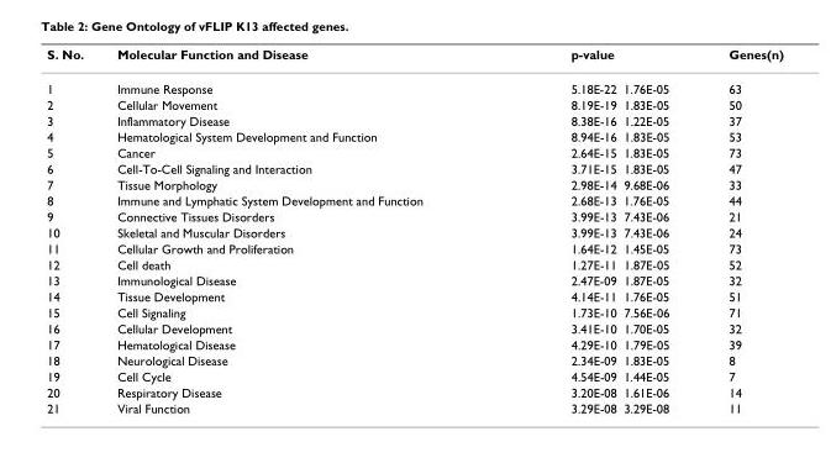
<table><thead><tr><td>S. No.</td><td>Molecular Function and Disease</td><td>p-value</td><td>Genes(n)</td></tr></thead><tbody><tr><td>1</td><td>Immune Response</td><td>5.18E-22 1.76E-05</td><td>63</td></tr><tr><td>2</td><td>Cellular Movement</td><td>8.19E-19 1.83E-05</td><td>50</td></tr><tr><td>3</td><td>Inflammatory Disease</td><td>8.38E-16 1.22E-05</td><td>37</td></tr><tr><td>4</td><td>Hematological System Development and Function</td><td>8.94E-16 1.83E-05</td><td>53</td></tr><tr><td>5</td><td>Cancer</td><td>2.64E-15 1.83E-05</td><td>73</td></tr><tr><td>6</td><td>Cell-To-Cell Signaling and Interaction</td><td>3.71E-15 1.83E-05</td><td>47</td></tr><tr><td>7</td><td>Tissue Morphology</td><td>2.98E-14 9.68E-06</td><td>33</td></tr><tr><td>8</td><td>Immune and Lymphatic System Development and Function</td><td>2.68E-13 1.76E-05</td><td>44</td></tr><tr><td>9</td><td>Connective Tissues Disorders</td><td>3.99E-13 7.43E-06</td><td>21</td></tr><tr><td>10</td><td>Skeletal and Muscular Disorders</td><td>3.99E-13 7.43E-06</td><td>24</td></tr><tr><td>11</td><td>Cellular Growth and Proliferation</td><td>1.64E-12 1.45E-05</td><td>73</td></tr><tr><td>12</td><td>Cell death</td><td>1.27E-11 1.87E-05</td><td>52</td></tr><tr><td>13</td><td>Immunological Disease</td><td>2.47E-09 1.87E-05</td><td>32</td></tr><tr><td>14</td><td>Tissue Development</td><td>4.14E-11 1.76E-05</td><td>51</td></tr><tr><td>15</td><td>Cell Signaling</td><td>1.73E-10 7.56E-06</td><td>71</td></tr><tr><td>16</td><td>Cellular Development</td><td>3.41E-10 1.70E-05</td><td>32</td></tr><tr><td>17</td><td>Hematological Disease</td><td>4.29E-10 1.79E-05</td><td>39</td></tr><tr><td>18</td><td>Neurological Disease</td><td>2.34E-09 1.83E-05</td><td>8</td></tr><tr><td>19</td><td>Cell Cycle</td><td>4.54E-09 1.44E-05</td><td>7</td></tr><tr><td>20</td><td>Respiratory Disease</td><td>3.20E-08 1.61E-06</td><td>14</td></tr><tr><td>21</td><td>Viral Function</td><td>3.29E-08 3.29E-08</td><td>11</td></tr></tbody></table>